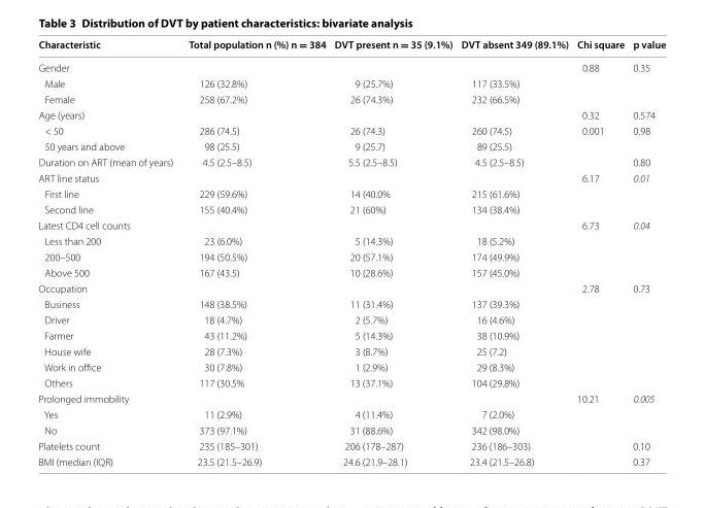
<table><thead><tr><td>Characteristic</td><td>Total population n (%) n = 384</td><td>DVT present n = 35 (9.1%)</td><td>DVT absent 349 (89.1%)</td><td>Chi square</td><td>p value</td></tr></thead><tbody><tr><td colspan="4">Gender</td><td>0.88</td><td>0.35</td></tr><tr><td>Male</td><td>126 (32.8%)</td><td>9 (25.7%)</td><td>117 (33.5%)</td><td></td><td></td></tr><tr><td>Female</td><td>258 (67.2%)</td><td>26 (74.3%)</td><td>232 (66.5%)</td><td></td><td></td></tr><tr><td colspan="4">Age (years)</td><td>0.32</td><td>0.574</td></tr><tr><td>&lt; 50</td><td>286 (74.5)</td><td>26 (74.3)</td><td>260 (74.5)</td><td>0.001</td><td>0.98</td></tr><tr><td>50 years and above</td><td>98 (25.5)</td><td>9 (25.7)</td><td>89 (25.5)</td><td></td><td></td></tr><tr><td>Duration on ART (mean of years)</td><td>4.5 (2.5–8.5)</td><td>5.5 (2.5–8.5)</td><td>4.5 (2.5–8.5)</td><td></td><td>0.80</td></tr><tr><td colspan="4">ART line status</td><td>6.17</td><td>0.01</td></tr><tr><td>First line</td><td>229 (59.6%)</td><td>14 (40.0%</td><td>215 (61.6%)</td><td></td><td></td></tr><tr><td>Second line</td><td>155 (40.4%)</td><td>21 (60%)</td><td>134 (38.4%)</td><td></td><td></td></tr><tr><td colspan="4">Latest CD4 cell counts</td><td>6.73</td><td>0.04</td></tr><tr><td>Less than 200</td><td>23 (6.0%)</td><td>5 (14.3%)</td><td>18 (5.2%)</td><td></td><td></td></tr><tr><td>200–500</td><td>194 (50.5%)</td><td>20 (57.1%)</td><td>174 (49.9%)</td><td></td><td></td></tr><tr><td>Above 500</td><td>167 (43.5)</td><td>10 (28.6%)</td><td>157 (45.0%)</td><td></td><td></td></tr><tr><td colspan="4">Occupation</td><td>2.78</td><td>0.73</td></tr><tr><td>Business</td><td>148 (38.5%)</td><td>11 (31.4%)</td><td>137 (39.3%)</td><td></td><td></td></tr><tr><td>Driver</td><td>18 (4.7%)</td><td>2 (5.7%)</td><td>16 (4.6%)</td><td></td><td></td></tr><tr><td>Farmer</td><td>43 (11.2%)</td><td>5 (14.3%)</td><td>38 (10.9%)</td><td></td><td></td></tr><tr><td>House wife</td><td>28 (7.3%)</td><td>3 (8.7%)</td><td>25 (7.2)</td><td></td><td></td></tr><tr><td>Work in office</td><td>30 (7.8%)</td><td>1 (2.9%)</td><td>29 (8.3%)</td><td></td><td></td></tr><tr><td>Others</td><td>117 (30.5%</td><td>13 (37.1%)</td><td>104 (29.8%)</td><td></td><td></td></tr><tr><td colspan="4">Prolonged immobility</td><td>10.21</td><td>0.005</td></tr><tr><td>Yes</td><td>11 (2.9%)</td><td>4 (11.4%)</td><td>7 (2.0%)</td><td></td><td></td></tr><tr><td>No</td><td>373 (97.1%)</td><td>31 (88.6%)</td><td>342 (98.0%)</td><td></td><td></td></tr><tr><td>Platelets count</td><td>235 (185–301)</td><td>206 (178–287)</td><td>236 (186–303)</td><td></td><td>0.10</td></tr><tr><td>BMI (median (IQR)</td><td>23.5 (21.5–26.9)</td><td>24.6 (21.9–28.1)</td><td>23.4 (21.5–26.8)</td><td></td><td>0.37</td></tr></tbody></table>